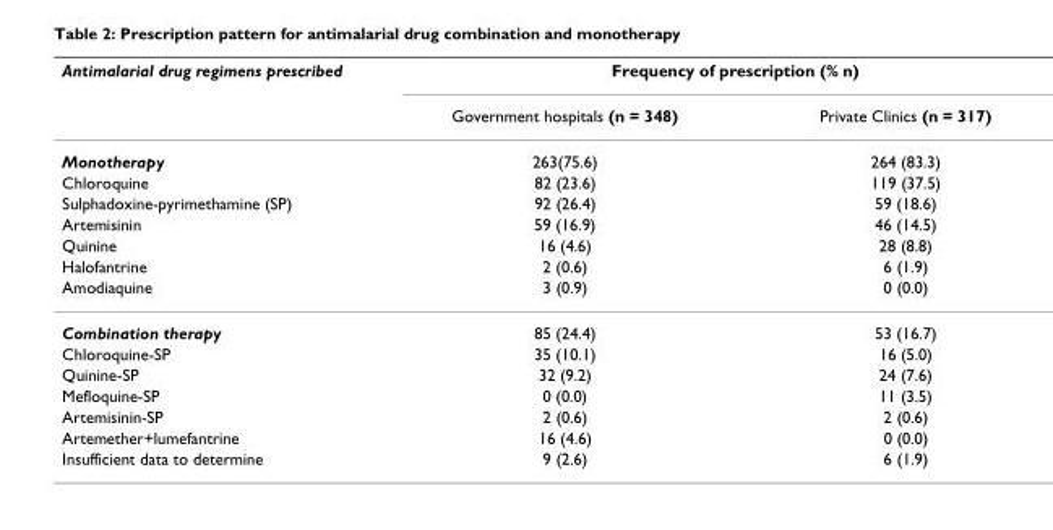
<table><thead><tr><td rowspan="2">Antimalarial drug regimens prescribed</td><td colspan="2">Frequency of prescription (% n)</td></tr><tr><td>Government hospitals (n = 348)</td><td>Private Clinics (n = 317)</td></tr></thead><tbody><tr><td>Monotherapy</td><td>263(75.6)</td><td>264 (83.3)</td></tr><tr><td>Chloroquine</td><td>82 (23.6)</td><td>119 (37.5)</td></tr><tr><td>Sulphadoxine-pyrimethamine (SP)</td><td>92 (26.4)</td><td>59 (18.6)</td></tr><tr><td>Artemisinin</td><td>59 (16.9)</td><td>46 (14.5)</td></tr><tr><td>Quinine</td><td>16 (4.6)</td><td>28 (8.8)</td></tr><tr><td>Halofantrine</td><td>2 (0.6)</td><td>6 (1.9)</td></tr><tr><td>Amodiaquine</td><td>3 (0.9)</td><td>0 (0.0)</td></tr><tr><td>Combination therapy</td><td>85 (24.4)</td><td>53 (16.7)</td></tr><tr><td>Chloroquine-SP</td><td>35 (10.1)</td><td>16 (5.0)</td></tr><tr><td>Quinine-SP</td><td>32 (9.2)</td><td>24 (7.6)</td></tr><tr><td>Mefloquine-SP</td><td>0 (0.0)</td><td>11 (3.5)</td></tr><tr><td>Artemisinin-SP</td><td>2 (0.6)</td><td>2 (0.6)</td></tr><tr><td>Artemether+lumefantrine</td><td>16 (4.6)</td><td>0 (0.0)</td></tr><tr><td>Insufficient data to determine</td><td>9 (2.6)</td><td>6 (1.9)</td></tr></tbody></table>